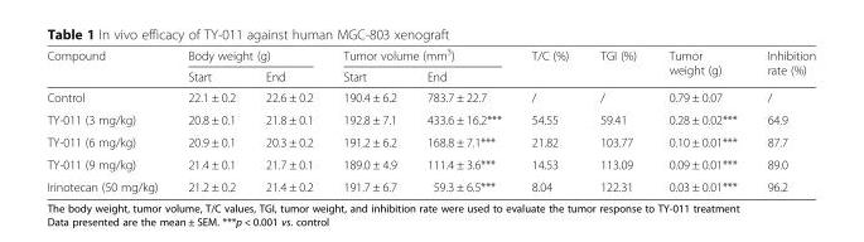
<table><thead><tr><td rowspan="2">Compound</td><td colspan="2">Body weight (g)</td><td colspan="2">Tumor volume (mm<sup>3</sup>)</td><td rowspan="2">T/C (%)</td><td rowspan="2">TGI (%)</td><td rowspan="2">Tumor weight (g)</td><td rowspan="2">Inhibition rate (%)</td></tr><tr><td>Start</td><td>End</td><td>Start</td><td>End</td></tr></thead><tbody><tr><td>Control</td><td>22.1 ± 0.2</td><td>22.6 ± 0.2</td><td>190.4 ± 6.2</td><td>783.7 ± 22.7</td><td>/</td><td>/</td><td>0.79 ± 0.07</td><td>/</td></tr><tr><td>TY-011 (3 mg/kg)</td><td>20.8 ± 0.1</td><td>21.8 ± 0.1</td><td>192.8 ± 7.1</td><td>433.6 ± 16.2***</td><td>54.55</td><td>59.41</td><td>0.28 ± 0.02***</td><td>64.9</td></tr><tr><td>TY-011 (6 mg/kg)</td><td>20.9 ± 0.1</td><td>20.3 ± 0.2</td><td>191.2 ± 6.2</td><td>168.8 ± 7.1***</td><td>21.82</td><td>103.77</td><td>0.10 ± 0.01***</td><td>87.7</td></tr><tr><td>TY-011 (9 mg/kg)</td><td>21.4 ± 0.1</td><td>21.7 ± 0.1</td><td>189.0 ± 4.9</td><td>111.4 ± 3.6***</td><td>14.53</td><td>113.09</td><td>0.09 ± 0.01***</td><td>89.0</td></tr><tr><td>Irinotecan (50 mg/kg)</td><td>21.2 ± 0.2</td><td>21.4 ± 0.2</td><td>191.7 ± 6.7</td><td>59.3 ± 6.5***</td><td>8.04</td><td>122.31</td><td>0.03 ± 0.01***</td><td>96.2</td></tr></tbody></table>